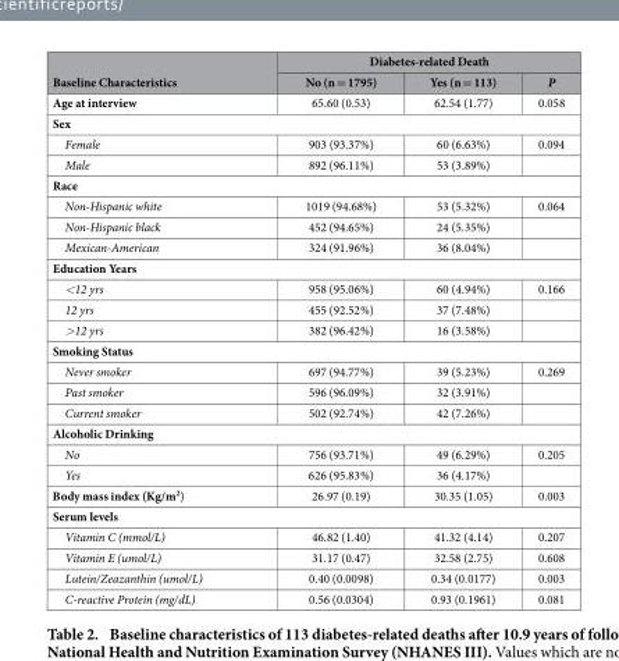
<table><thead><tr><td rowspan="2">Baseline Characteristics</td><td colspan="3">Diabetes-related Death</td></tr><tr><td>No (n = 1795)</td><td>Yes (n = 113)</td><td>P</td></tr></thead><tbody><tr><td>Age at interview</td><td>65.60 (0.53)</td><td>62.54 (1.77)</td><td>0.058</td></tr><tr><td colspan="4">Sex</td></tr><tr><td>Female</td><td>903 (93.37%)</td><td>60 (6.63%)</td><td>0.094</td></tr><tr><td>Male</td><td>892 (96.11%)</td><td>53 (3.89%)</td><td></td></tr><tr><td colspan="4">Race</td></tr><tr><td>Non-Hispanic white</td><td>1019 (94.68%)</td><td>53 (5.32%)</td><td>0.064</td></tr><tr><td>Non-Hispanic black</td><td>452 (94.65%)</td><td>24 (5.35%)</td><td></td></tr><tr><td>Mexican-American</td><td>324 (91.96%)</td><td>36 (8.04%)</td><td></td></tr><tr><td colspan="4">Education Years</td></tr><tr><td>&lt;12 yrs</td><td>958 (95.06%)</td><td>60 (4.94%)</td><td>0.166</td></tr><tr><td>12 yrs</td><td>455 (92.52%)</td><td>37 (7.48%)</td><td></td></tr><tr><td>&gt;12 yrs</td><td>382 (96.42%)</td><td>16 (3.58%)</td><td></td></tr><tr><td colspan="4">Smoking Status</td></tr><tr><td>Never smoker</td><td>697 (94.77%)</td><td>39 (5.23%)</td><td>0.269</td></tr><tr><td>Past smoker</td><td>596 (96.09%)</td><td>32 (3.91%)</td><td></td></tr><tr><td>Current smoker</td><td>502 (92.74%)</td><td>42 (7.26%)</td><td></td></tr><tr><td colspan="4">Alcoholic Drinking</td></tr><tr><td>No</td><td>756 (93.71%)</td><td>49 (6.29%)</td><td>0.205</td></tr><tr><td>Yes</td><td>626 (95.83%)</td><td>36 (4.17%)</td><td></td></tr><tr><td>Body mass index (Kg/m<sup>2</sup>)</td><td>26.97 (0.19)</td><td>30.35 (1.05)</td><td>0.003</td></tr><tr><td colspan="4">Serum levels</td></tr><tr><td>Vitamin C (mmol/L)</td><td>46.82 (1.40)</td><td>41.32 (4.14)</td><td>0.207</td></tr><tr><td>Vitamin E (umol/L)</td><td>31.17 (0.47)</td><td>32.58 (2.75)</td><td>0.608</td></tr><tr><td>Lutein/Zeazanthin (umol/L)</td><td>0.40 (0.0098)</td><td>0.34 (0.0177)</td><td>0.003</td></tr><tr><td>C-reactive Protein (mg/dL)</td><td>0.56 (0.0304)</td><td>0.93 (0.1961)</td><td>0.081</td></tr></tbody></table>